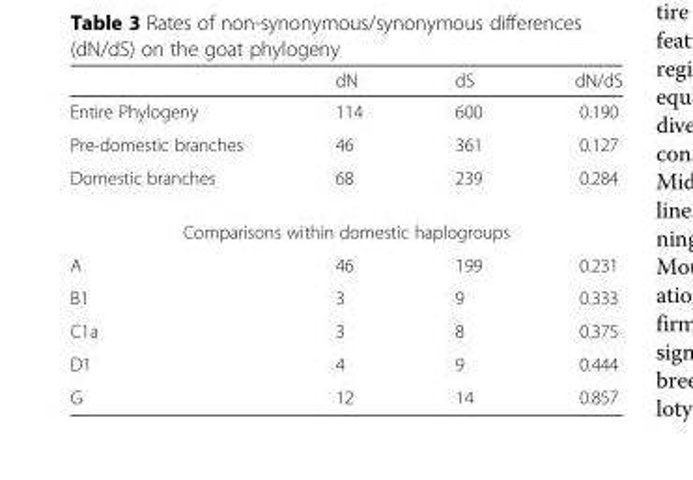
<table><thead><tr><td></td><td>dN</td><td>dS</td><td>dN/dS</td></tr></thead><tbody><tr><td>Entire Phylogeny</td><td>114</td><td>600</td><td>0.190</td></tr><tr><td>Pre-domestic branches</td><td>46</td><td>361</td><td>0.127</td></tr><tr><td>Domestic branches</td><td>68</td><td>239</td><td>0.284</td></tr><tr><td colspan="4">Comparisons within domestic haplogroups</td></tr><tr><td>A</td><td>46</td><td>199</td><td>0.231</td></tr><tr><td>B1</td><td>3</td><td>9</td><td>0.333</td></tr><tr><td>C1a</td><td>3</td><td>8</td><td>0.375</td></tr><tr><td>D1</td><td>4</td><td>9</td><td>0.444</td></tr><tr><td>G</td><td>12</td><td>14</td><td>0.857</td></tr></tbody></table>